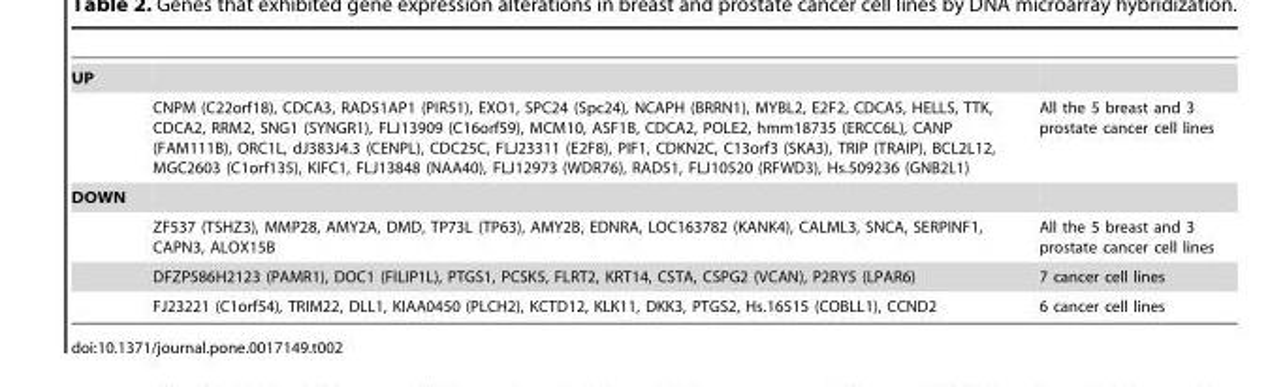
<table><tbody><tr><td colspan="3">UP</td></tr><tr><td></td><td>CNPM (C22orf18), CDCA3, RAD51AP1 (PIR51), EXO1, SPC24 (Spc24), NCAPH (BRRN1), MYBL2, E2F2, CDCA5, HELLS, TTK, CDCA2, RRM2, SNG1 (SYNGR1), FLJ13909 (C16orf59), MCM10, ASF1B, CDCA2, POLE2, hmm18735 (ERCC6L), CANP (FAM111B), ORC1L, dJ383J4.3 (CENPL), CDC25C, FLJ23311 (E2F8), PIF1, CDKN2C, C13orf3 (SKA3), TRIP (TRAIP), BCL2L12, MGC2603 (C1orf135), KIFC1, FLJ13848 (NAA40), FLJ12973 (WDR76), RAD51, FLJ10520 (RFWD3), Hs.509236 (GNB2L1)</td><td>All the 5 breast and 3 prostate cancer cell lines</td></tr><tr><td colspan="3">DOWN</td></tr><tr><td></td><td>ZF537 (TSHZ3), MMP28, AMY2A, DMD, TP73L (TP63), AMY2B, EDNRA, LOC163782 (KANK4), CALML3, SNCA, SERPINF1, CAPN3, ALOX15B</td><td>All the 5 breast and 3 prostate cancer cell lines</td></tr><tr><td></td><td>DFZP586H2123 (PAMR1), DOC1 (FILIP1L), PTGS1, PCSK5, FLRT2, KRT14, CSTA, CSPG2 (VCAN), P2RY5 (LPAR6)</td><td>7 cancer cell lines</td></tr><tr><td></td><td>FJ23221 (C1orf54), TRIM22, DLL1, KIAA0450 (PLCH2), KCTD12, KLK11, DKK3, PTGS2, Hs.16515 (COBLL1), CCND2</td><td>6 cancer cell lines</td></tr></tbody></table>